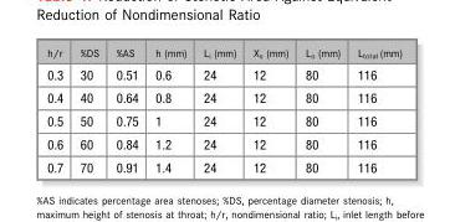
<table><thead><tr><td>h/r</td><td>%DS</td><td>%AS</td><td>h (mm)</td><td>L<sub>i</sub> (mm)</td><td>X<sub>s</sub> (mm)</td><td>L<sub>o</sub> (mm)</td><td>L<sub>total</sub> (mm)</td></tr></thead><tbody><tr><td>0.3</td><td>30</td><td>0.51</td><td>0.6</td><td>24</td><td>12</td><td>80</td><td>116</td></tr><tr><td>0.4</td><td>40</td><td>0.64</td><td>0.8</td><td>24</td><td>12</td><td>80</td><td>116</td></tr><tr><td>0.5</td><td>50</td><td>0.75</td><td>1</td><td>24</td><td>12</td><td>80</td><td>116</td></tr><tr><td>0.6</td><td>60</td><td>0.84</td><td>1.2</td><td>24</td><td>12</td><td>80</td><td>116</td></tr><tr><td>0.7</td><td>70</td><td>0.91</td><td>1.4</td><td>24</td><td>12</td><td>80</td><td>116</td></tr></tbody></table>